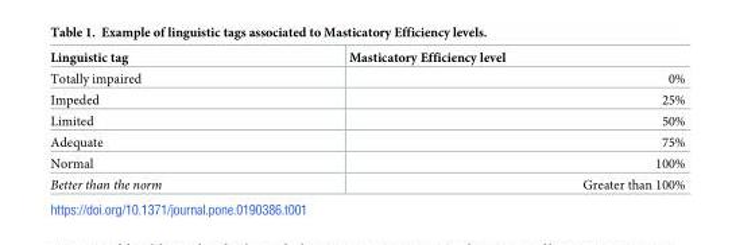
<table><thead><tr><td>Linguistic tag</td><td>Masticatory Efficiency level</td></tr></thead><tbody><tr><td>Totally impaired</td><td>0%</td></tr><tr><td>Impeded</td><td>25%</td></tr><tr><td>Limited</td><td>50%</td></tr><tr><td>Adequate</td><td>75%</td></tr><tr><td>Normal</td><td>100%</td></tr><tr><td>Better than the norm</td><td>Greater than 100%</td></tr></tbody></table>